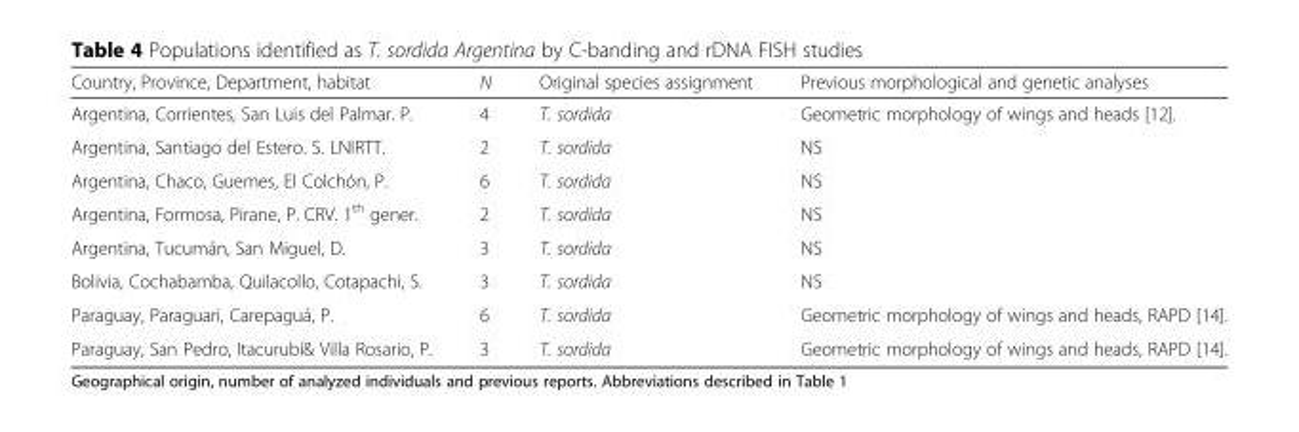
<table><thead><tr><td>Country, Province, Department, habitat</td><td>N</td><td>Original species assignment</td><td>Previous morphological and genetic analyses</td></tr></thead><tbody><tr><td>Argentina, Corrientes, San Luis del Palmar. P.</td><td>4</td><td>T. sordida</td><td>Geometric morphology of wings and heads [12].</td></tr><tr><td>Argentina, Santiago del Estero. S. LNIRTT.</td><td>2</td><td>T. sordida</td><td>NS</td></tr><tr><td>Argentina, Chaco, Guemes, El Colchón, P.</td><td>6</td><td>T. sordida</td><td>NS</td></tr><tr><td>Argentina, Formosa, Pirane, P. CRV. 1<sup>th</sup> gener.</td><td>2</td><td>T. sordida</td><td>NS</td></tr><tr><td>Argentina, Tucumán, San Miguel, D.</td><td>3</td><td>T. sordida</td><td>NS</td></tr><tr><td>Bolivia, Cochabamba, Quilacollo, Cotapachi, S.</td><td>3</td><td>T. sordida</td><td>NS</td></tr><tr><td>Paraguay, Paraguari, Carepaguá, P.</td><td>6</td><td>T. sordida</td><td>Geometric morphology of wings and heads, RAPD [14].</td></tr><tr><td>Paraguay, San Pedro, Itacurubí&amp; Villa Rosario, P.</td><td>3</td><td>T. sordida</td><td>Geometric morphology of wings and heads, RAPD [14].</td></tr></tbody></table>